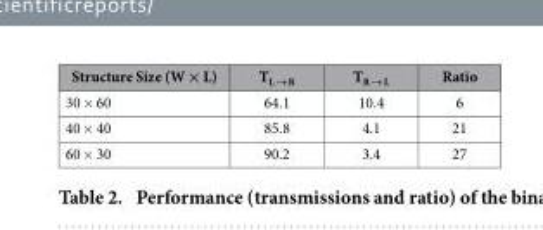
<table><thead><tr><td>Structure Size (W × L)</td><td>T<sub>L → R</sub></td><td>T<sub>R → L</sub></td><td>Ratio</td></tr></thead><tbody><tr><td>30 × 60</td><td>64.1</td><td>10.4</td><td>6</td></tr><tr><td>40 × 40</td><td>85.8</td><td>4.1</td><td>21</td></tr><tr><td>60 × 30</td><td>90.2</td><td>3.4</td><td>27</td></tr></tbody></table>